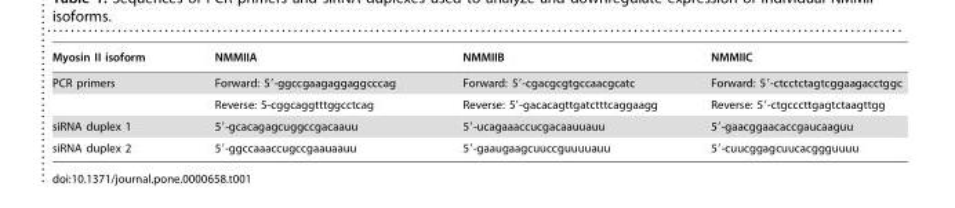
<table><thead><tr><td>Myosin II isoform</td><td>NMMIIA</td><td>NMMIIB</td><td>NMMIIC</td></tr></thead><tbody><tr><td rowspan="2">PCR primers</td><td>Forward: 5′-ggccgaagaggaggcccag</td><td>Forward: 5′-cgacgcgtgccaacgcatc</td><td>Forward: 5′-ctcctctagtcggaagacctggc</td></tr><tr><td>Reverse: 5-cggcaggtttggcctcag</td><td>Reverse: 5′-gacacagttgatctttcaggaagg</td><td>Reverse: 5′-ctgcccttgagtctaagttgg</td></tr><tr><td>siRNA duplex 1</td><td>5′-gcacagagcuggccgacaauu</td><td>5′-ucagaaaccucgacaauuauu</td><td>5′-gaacggaacaccgaucaaguu</td></tr><tr><td>siRNA duplex 2</td><td>5′-ggccaaaccugccgaauaauu</td><td>5′-gaaugaagcuuccguuuuauu</td><td>5′-cuucggagcuucacggguuuu</td></tr></tbody></table>